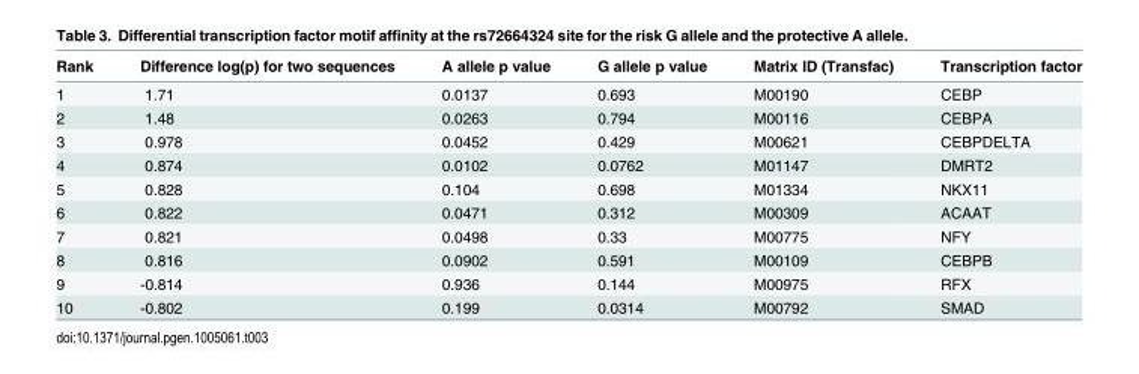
<table><thead><tr><td>Rank</td><td>Difference log(p) for two sequences</td><td>A allele p value</td><td>G allele p value</td><td>Matrix ID (Transfac)</td><td>Transcription factor</td></tr></thead><tbody><tr><td>1</td><td>1.71</td><td>0.0137</td><td>0.693</td><td>M00190</td><td>CEBP</td></tr><tr><td>2</td><td>1.48</td><td>0.0263</td><td>0.794</td><td>M00116</td><td>CEBPA</td></tr><tr><td>3</td><td>0.978</td><td>0.0452</td><td>0.429</td><td>M00621</td><td>CEBPDELTA</td></tr><tr><td>4</td><td>0.874</td><td>0.0102</td><td>0.0762</td><td>M01147</td><td>DMRT2</td></tr><tr><td>5</td><td>0.828</td><td>0.104</td><td>0.698</td><td>M01334</td><td>NKX11</td></tr><tr><td>6</td><td>0.822</td><td>0.0471</td><td>0.312</td><td>M00309</td><td>ACAAT</td></tr><tr><td>7</td><td>0.821</td><td>0.0498</td><td>0.33</td><td>M00775</td><td>NFY</td></tr><tr><td>8</td><td>0.816</td><td>0.0902</td><td>0.591</td><td>M00109</td><td>CEBPB</td></tr><tr><td>9</td><td>-0.814</td><td>0.936</td><td>0.144</td><td>M00975</td><td>RFX</td></tr><tr><td>10</td><td>-0.802</td><td>0.199</td><td>0.0314</td><td>M00792</td><td>SMAD</td></tr></tbody></table>